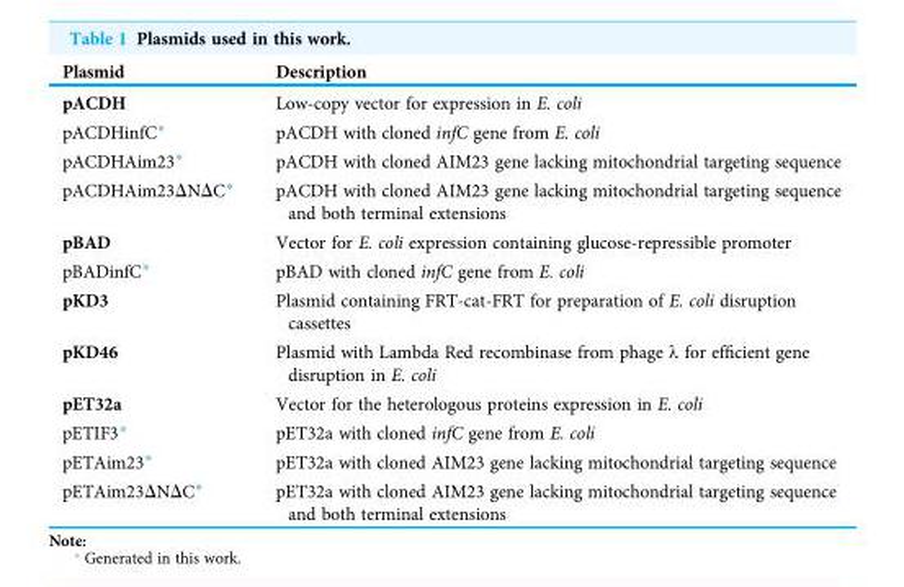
<table><thead><tr><td>Plasmid</td><td>Description</td></tr></thead><tbody><tr><td>pACDH</td><td>Low-copy vector for expression in E. coli</td></tr><tr><td>pACDHinfC*</td><td>pACDH with cloned infC gene from E. coli</td></tr><tr><td>pACDHAim23*</td><td>pACDH with cloned AIM23 gene lacking mitochondrial targeting sequence</td></tr><tr><td>pACDHAim23ΔNΔC*</td><td>pACDH with cloned AIM23 gene lacking mitochondrial targeting sequence and both terminal extensions</td></tr><tr><td>pBAD</td><td>Vector for E. coli expression containing glucose-repressible promoter</td></tr><tr><td>pBADinfC*</td><td>pBAD with cloned infC gene from E. coli</td></tr><tr><td>pKD3</td><td>Plasmid containing FRT-cat-FRT for preparation of E. coli disruption cassettes</td></tr><tr><td>pKD46</td><td>Plasmid with Lambda Red recombinase from phage λ for efficient gene disruption in E. coli</td></tr><tr><td>pET32a</td><td>Vector for the heterologous proteins expression in E. coli</td></tr><tr><td>pETIF3*</td><td>pET32a with cloned infC gene from E. coli</td></tr><tr><td>pETAim23*</td><td>pET32a with cloned AIM23 gene lacking mitochondrial targeting sequence</td></tr><tr><td>pETAim23ΔNΔC*</td><td>pET32a with cloned AIM23 gene lacking mitochondrial targeting sequence and both terminal extensions</td></tr></tbody></table>